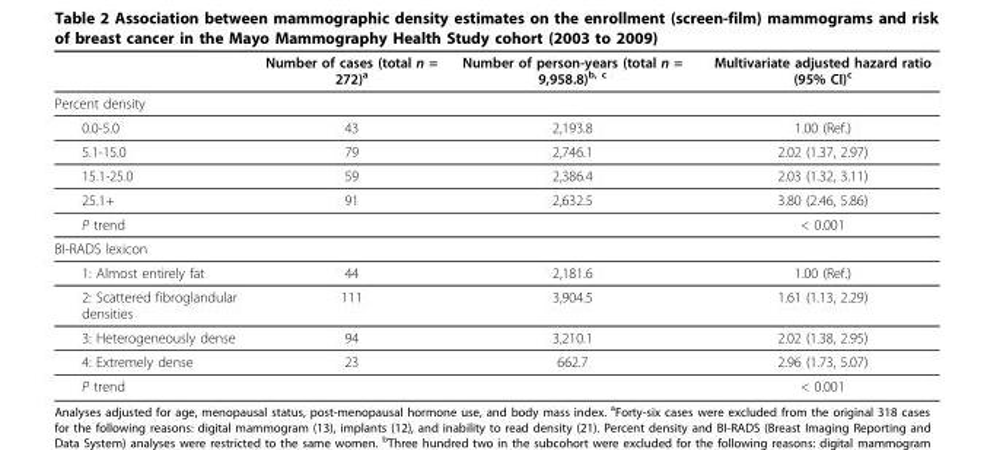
<table><thead><tr><td></td><td>Number of cases (total n = 272)<sup>a</sup></td><td>Number of person-years (total n = 9,958.8)<sup>b, c</sup></td><td>Multivariate adjusted hazard ratio (95% CI)<sup>c</sup></td></tr></thead><tbody><tr><td colspan="4">Percent density</td></tr><tr><td>0.0-5.0</td><td>43</td><td>2,193.8</td><td>1.00 (Ref.)</td></tr><tr><td>5.1-15.0</td><td>79</td><td>2,746.1</td><td>2.02 (1.37, 2.97)</td></tr><tr><td>15.1-25.0</td><td>59</td><td>2,386.4</td><td>2.03 (1.32, 3.11)</td></tr><tr><td>25.1+</td><td>91</td><td>2,632.5</td><td>3.80 (2.46, 5.86)</td></tr><tr><td>P trend</td><td></td><td></td><td>&lt; 0.001</td></tr><tr><td colspan="4">BI-RADS lexicon</td></tr><tr><td>1: Almost entirely fat</td><td>44</td><td>2,181.6</td><td>1.00 (Ref.)</td></tr><tr><td>2: Scattered fibroglandular densities</td><td>111</td><td>3,904.5</td><td>1.61 (1.13, 2.29)</td></tr><tr><td>3: Heterogeneously dense</td><td>94</td><td>3,210.1</td><td>2.02 (1.38, 2.95)</td></tr><tr><td>4: Extremely dense</td><td>23</td><td>662.7</td><td>2.96 (1.73, 5.07)</td></tr><tr><td>P trend</td><td></td><td></td><td>&lt; 0.001</td></tr></tbody></table>